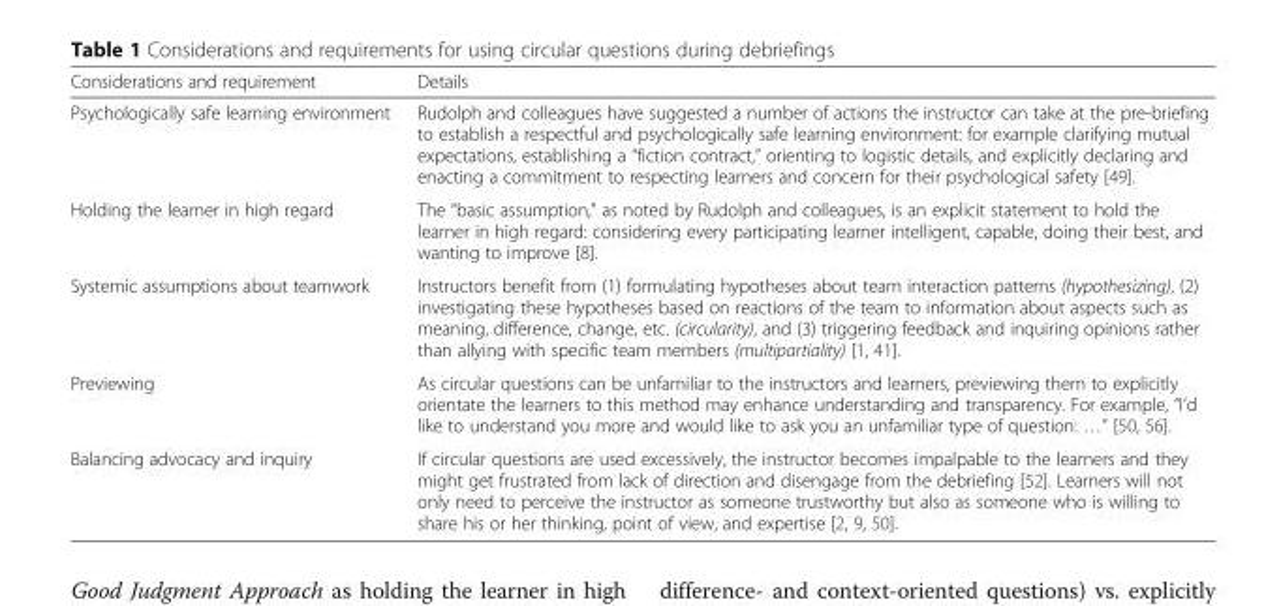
<table><thead><tr><td>Considerations and requirement</td><td>Details</td></tr></thead><tbody><tr><td>Psychologically safe learning environment</td><td>Rudolph and colleagues have suggested a number of actions the instructor can take at the pre-briefing to establish a respectful and psychologically safe learning environment: for example clarifying mutual expectations, establishing a “fiction contract,” orienting to logistic details, and explicitly declaring and enacting a commitment to respecting learners and concern for their psychological safety [49].</td></tr><tr><td>Holding the learner in high regard</td><td>The “basic assumption,” as noted by Rudolph and colleagues, is an explicit statement to hold the learner in high regard: considering every participating learner intelligent, capable, doing their best, and wanting to improve [8].</td></tr><tr><td>Systemic assumptions about teamwork</td><td>Instructors benefit from (1) formulating hypotheses about team interaction patterns (hypothesizing), (2) investigating these hypotheses based on reactions of the team to information about aspects such as meaning, difference, change, etc. (circularity), and (3) triggering feedback and inquiring opinions rather than allying with specific team members (multipartiality) [1, 41].</td></tr><tr><td>Previewing</td><td>As circular questions can be unfamiliar to the instructors and learners, previewing them to explicitly orientate the learners to this method may enhance understanding and transparency. For example, “I’d like to understand you more and would like to ask you an unfamiliar type of question: …” [50, 56].</td></tr><tr><td>Balancing advocacy and inquiry</td><td>If circular questions are used excessively, the instructor becomes impalpable to the learners and they might get frustrated from lack of direction and disengage from the debriefing [52]. Learners will not only need to perceive the instructor as someone trustworthy but also as someone who is willing to share his or her thinking, point of view, and expertise [2, 9, 50].</td></tr></tbody></table>